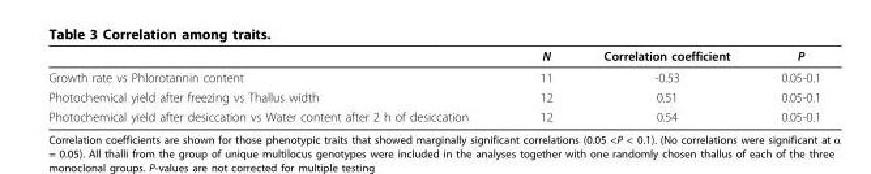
<table><thead><tr><td></td><td>N</td><td>Correlation coefficient</td><td>P</td></tr></thead><tbody><tr><td>Growth rate vs Phlorotannin content</td><td>11</td><td>-0.53</td><td>0.05-0.1</td></tr><tr><td>Photochemical yield after freezing vs Thallus width</td><td>12</td><td>0.51</td><td>0.05-0.1</td></tr><tr><td>Photochemical yield after desiccation vs Water content after 2 h of desiccation</td><td>12</td><td>0.54</td><td>0.05-0.1</td></tr></tbody></table>